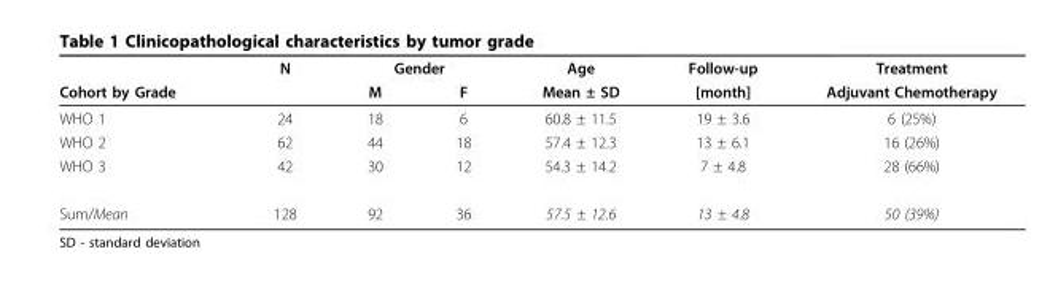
<table><thead><tr><td rowspan="2">Cohort by Grade</td><td rowspan="2">N</td><td colspan="2">Gender</td><td rowspan="2">Age Mean ± SD</td><td rowspan="2">Follow-up [month]</td><td rowspan="2">Treatment Adjuvant Chemotherapy</td></tr><tr><td>M</td><td>F</td></tr></thead><tbody><tr><td>WHO 1</td><td>24</td><td>18</td><td>6</td><td>60.8 ± 11.5</td><td>19 ± 3.6</td><td>6 (25%)</td></tr><tr><td>WHO 2</td><td>62</td><td>44</td><td>18</td><td>57.4 ± 12.3</td><td>13 ± 6.1</td><td>16 (26%)</td></tr><tr><td>WHO 3</td><td>42</td><td>30</td><td>12</td><td>54.3 ± 14.2</td><td>7 ± 4.8</td><td>28 (66%)</td></tr><tr><td>Sum/Mean</td><td>128</td><td>92</td><td>36</td><td>57.5 ± 12.6</td><td>13 ± 4.8</td><td>50 (39%)</td></tr></tbody></table>